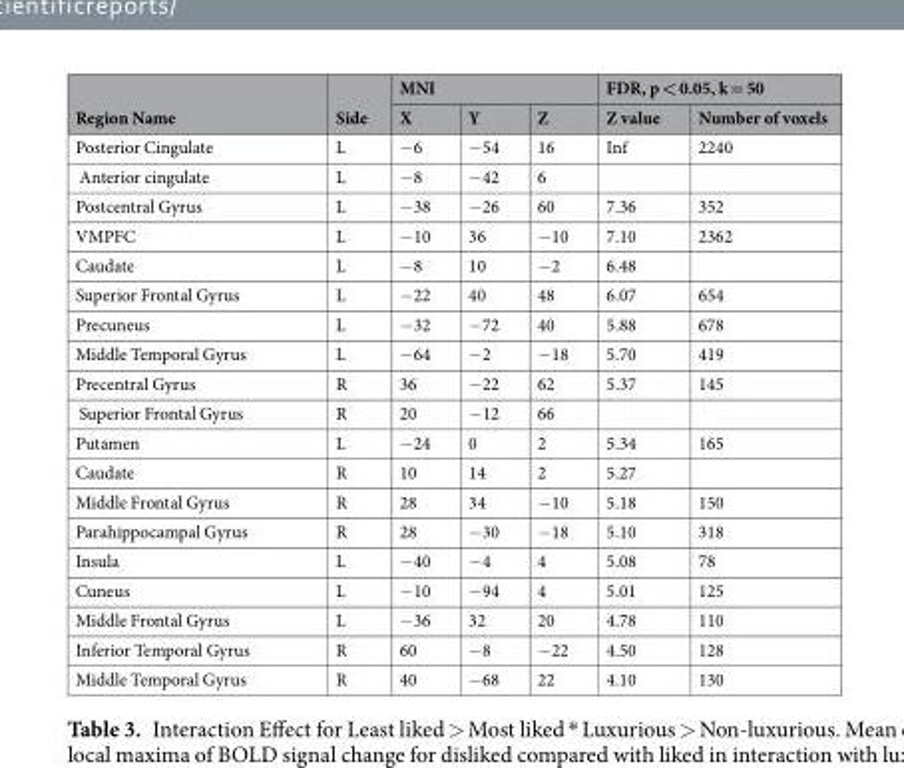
<table><thead><tr><td rowspan="2">Region Name</td><td rowspan="2">Side</td><td colspan="3">MNI</td><td colspan="2">FDR, p &lt; 0.05, k = 50</td></tr><tr><td>X</td><td>Y</td><td>Z</td><td>Z value</td><td>Number of voxels</td></tr></thead><tbody><tr><td>Posterior Cingulate</td><td>L</td><td>−6</td><td>−54</td><td>16</td><td>Inf</td><td>2240</td></tr><tr><td>Anterior cingulate</td><td>L</td><td>−8</td><td>−42</td><td>6</td><td></td><td></td></tr><tr><td>Postcentral Gyrus</td><td>L</td><td>−38</td><td>−26</td><td>60</td><td>7.36</td><td>352</td></tr><tr><td>VMPFC</td><td>L</td><td>−10</td><td>36</td><td>−10</td><td>7.10</td><td>2362</td></tr><tr><td>Caudate</td><td>L</td><td>−8</td><td>10</td><td>−2</td><td>6.48</td><td></td></tr><tr><td>Superior Frontal Gyrus</td><td>L</td><td>−22</td><td>40</td><td>48</td><td>6.07</td><td>654</td></tr><tr><td>Precuneus</td><td>L</td><td>−32</td><td>−72</td><td>40</td><td>5.88</td><td>678</td></tr><tr><td>Middle Temporal Gyrus</td><td>L</td><td>−64</td><td>−2</td><td>−18</td><td>5.70</td><td>419</td></tr><tr><td>Precentral Gyrus</td><td>R</td><td>36</td><td>−22</td><td>62</td><td>5.37</td><td>145</td></tr><tr><td>Superior Frontal Gyrus</td><td>R</td><td>20</td><td>−12</td><td>66</td><td></td><td></td></tr><tr><td>Putamen</td><td>L</td><td>−24</td><td>0</td><td>2</td><td>5.34</td><td>165</td></tr><tr><td>Caudate</td><td>R</td><td>10</td><td>14</td><td>2</td><td>5.27</td><td></td></tr><tr><td>Middle Frontal Gyrus</td><td>R</td><td>28</td><td>34</td><td>−10</td><td>5.18</td><td>150</td></tr><tr><td>Parahippocampal Gyrus</td><td>R</td><td>28</td><td>−30</td><td>−18</td><td>5.10</td><td>318</td></tr><tr><td>Insula</td><td>L</td><td>−40</td><td>−4</td><td>4</td><td>5.08</td><td>78</td></tr><tr><td>Cuneus</td><td>L</td><td>−10</td><td>−94</td><td>4</td><td>5.01</td><td>125</td></tr><tr><td>Middle Frontal Gyrus</td><td>L</td><td>−36</td><td>32</td><td>20</td><td>4.78</td><td>110</td></tr><tr><td>Inferior Temporal Gyrus</td><td>R</td><td>60</td><td>−8</td><td>−22</td><td>4.50</td><td>128</td></tr><tr><td>Middle Temporal Gyrus</td><td>R</td><td>40</td><td>−68</td><td>22</td><td>4.10</td><td>130</td></tr></tbody></table>